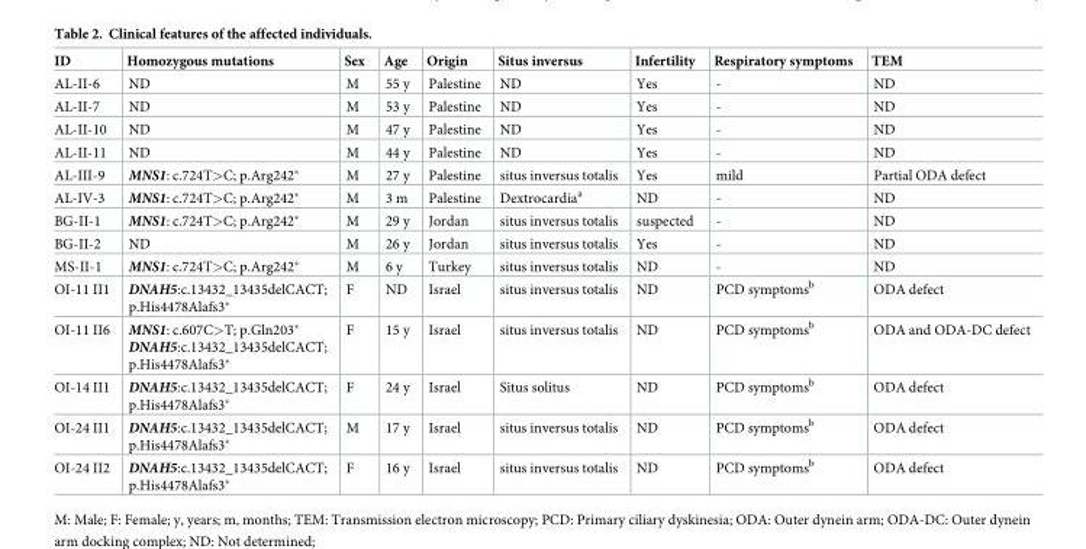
<table><thead><tr><td>ID</td><td>Homozygous mutations</td><td>Sex</td><td>Age</td><td>Origin</td><td>Situs inversus</td><td>Infertility</td><td>Respiratory symptoms</td><td>TEM</td></tr></thead><tbody><tr><td>AL-II-6</td><td>ND</td><td>M</td><td>55 y</td><td>Palestine</td><td>ND</td><td>Yes</td><td>-</td><td>ND</td></tr><tr><td>AL-II-7</td><td>ND</td><td>M</td><td>53 y</td><td>Palestine</td><td>ND</td><td>Yes</td><td>-</td><td>ND</td></tr><tr><td>AL-II-10</td><td>ND</td><td>M</td><td>47 y</td><td>Palestine</td><td>ND</td><td>Yes</td><td>-</td><td>ND</td></tr><tr><td>AL-II-11</td><td>ND</td><td>M</td><td>44 y</td><td>Palestine</td><td>ND</td><td>Yes</td><td>-</td><td>ND</td></tr><tr><td>AL-III-9</td><td>MNS1: c.724T&gt;C; p.Arg242*</td><td>M</td><td>27 y</td><td>Palestine</td><td>situs inversus totalis</td><td>Yes</td><td>mild</td><td>Partial ODA defect</td></tr><tr><td>AL-IV-3</td><td>MNS1: c.724T&gt;C; p.Arg242*</td><td>M</td><td>3 m</td><td>Palestine</td><td>Dextrocardia<sup>a</sup></td><td>ND</td><td>-</td><td>ND</td></tr><tr><td>BG-II-1</td><td>MNS1: c.724T&gt;C; p.Arg242*</td><td>M</td><td>29 y</td><td>Jordan</td><td>situs inversus totalis</td><td>suspected</td><td>-</td><td>ND</td></tr><tr><td>BG-II-2</td><td>ND</td><td>M</td><td>26 y</td><td>Jordan</td><td>situs inversus totalis</td><td>Yes</td><td>-</td><td>ND</td></tr><tr><td>MS-II-1</td><td>MNS1: c.724T&gt;C; p.Arg242*</td><td>M</td><td>6 y</td><td>Turkey</td><td>situs inversus totalis</td><td>ND</td><td>-</td><td>ND</td></tr><tr><td>OI-11 II1</td><td>DNAH5:c.13432_13435delCACT; p.His4478Alafs3*</td><td>F</td><td>ND</td><td>Israel</td><td>situs inversus totalis</td><td>ND</td><td>PCD symptoms<sup>b</sup></td><td>ODA defect</td></tr><tr><td>OI-11 II6</td><td>MNS1: c.607C&gt;T; p.Gln203* DNAH5:c.13432_13435delCACT; p.His4478Alafs3*</td><td>F</td><td>15 y</td><td>Israel</td><td>situs inversus totalis</td><td>ND</td><td>PCD symptoms<sup>b</sup></td><td>ODA and ODA-DC defect</td></tr><tr><td>OI-14 II1</td><td>DNAH5:c.13432_13435delCACT; p.His4478Alafs3*</td><td>F</td><td>24 y</td><td>Israel</td><td>Situs solitus</td><td>ND</td><td>PCD symptoms<sup>b</sup></td><td>ODA defect</td></tr><tr><td>OI-24 II1</td><td>DNAH5:c.13432_13435delCACT; p.His4478Alafs3*</td><td>M</td><td>17 y</td><td>Israel</td><td>situs inversus totalis</td><td>ND</td><td>PCD symptoms<sup>b</sup></td><td>ODA defect</td></tr><tr><td>OI-24 II2</td><td>DNAH5:c.13432_13435delCACT; p.His4478Alafs3*</td><td>F</td><td>16 y</td><td>Israel</td><td>situs inversus totalis</td><td>ND</td><td>PCD symptoms<sup>b</sup></td><td>ODA defect</td></tr></tbody></table>